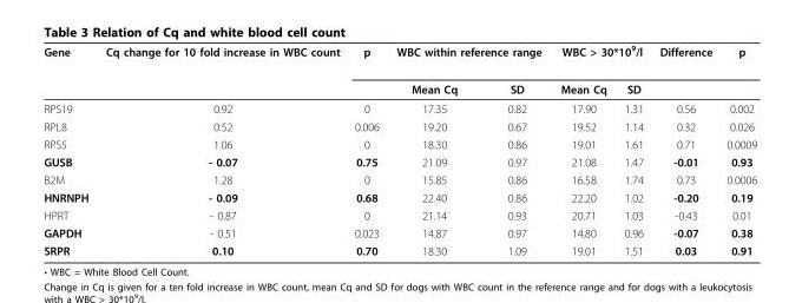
<table><thead><tr><td rowspan="2">Gene</td><td rowspan="2">Cq change for 10 fold increase in WBC count</td><td rowspan="2">p</td><td colspan="2">WBC within reference range</td><td colspan="2">WBC &gt; 30*10<sup>9</sup>/l</td><td rowspan="2">Difference</td><td rowspan="2">p</td></tr><tr><td>Mean Cq</td><td>SD</td><td>Mean Cq</td><td>SD</td></tr></thead><tbody><tr><td>RPS19</td><td>0.92</td><td>0</td><td>17.35</td><td>0.82</td><td>17.90</td><td>1.31</td><td>0.56</td><td>0.002</td></tr><tr><td>RPL8</td><td>0.52</td><td>0.006</td><td>19.20</td><td>0.67</td><td>19.52</td><td>1.14</td><td>0.32</td><td>0.026</td></tr><tr><td>RPS5</td><td>1.06</td><td>0</td><td>18.30</td><td>0.86</td><td>19.01</td><td>1.61</td><td>0.71</td><td>0.0009</td></tr><tr><td>GUSB</td><td>- 0.07</td><td>0.75</td><td>21.09</td><td>0.97</td><td>21.08</td><td>1.47</td><td>-0.01</td><td>0.93</td></tr><tr><td>B2M</td><td>1.28</td><td>0</td><td>15.85</td><td>0.86</td><td>16.58</td><td>1.74</td><td>0.73</td><td>0.0006</td></tr><tr><td>HNRNPH</td><td>- 0.09</td><td>0.68</td><td>22.40</td><td>0.86</td><td>22.20</td><td>1.02</td><td>-0.20</td><td>0.19</td></tr><tr><td>HPRT</td><td>- 0.87</td><td>0</td><td>21.14</td><td>0.93</td><td>20.71</td><td>1.03</td><td>-0.43</td><td>0.01</td></tr><tr><td>GAPDH</td><td>- 0.51</td><td>0.023</td><td>14.87</td><td>0.97</td><td>14.80</td><td>0.96</td><td>-0.07</td><td>0.38</td></tr><tr><td>SRPR</td><td>0.10</td><td>0.70</td><td>18.30</td><td>1.09</td><td>19.01</td><td>1.51</td><td>0.03</td><td>0.91</td></tr></tbody></table>